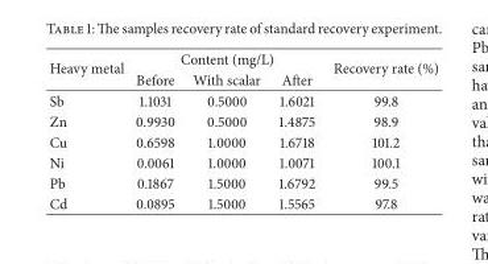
<table><thead><tr><td rowspan="2">Heavy metal</td><td colspan="3">Content (mg/L)</td><td rowspan="2">Recovery rate (%)</td></tr><tr><td>Before</td><td>With scalar</td><td>After</td></tr></thead><tbody><tr><td>Sb</td><td>1.1031</td><td>0.5000</td><td>1.6021</td><td>99.8</td></tr><tr><td>Zn</td><td>0.9930</td><td>0.5000</td><td>1.4875</td><td>98.9</td></tr><tr><td>Cu</td><td>0.6598</td><td>1.0000</td><td>1.6718</td><td>101.2</td></tr><tr><td>Ni</td><td>0.0061</td><td>1.0000</td><td>1.0071</td><td>100.1</td></tr><tr><td>Pb</td><td>0.1867</td><td>1.5000</td><td>1.6792</td><td>99.5</td></tr><tr><td>Cd</td><td>0.0895</td><td>1.5000</td><td>1.5565</td><td>97.8</td></tr></tbody></table>